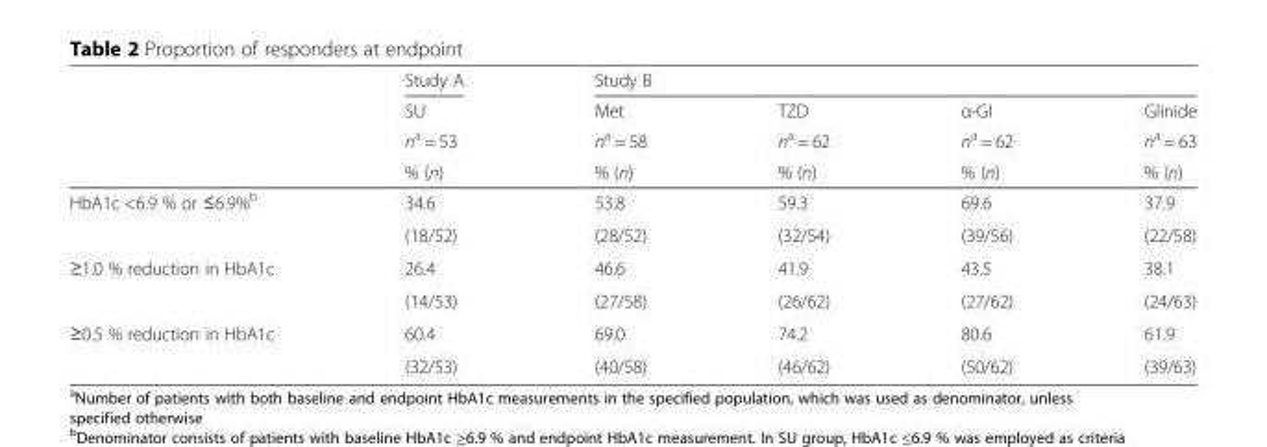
<table><thead><tr><td rowspan="4"></td><td rowspan="4">Study A SU n<sup>a</sup> = 53 % (n)</td><td colspan="4">Study B</td></tr><tr><td rowspan="3">Met n<sup>a</sup> = 58 % (n)</td><td rowspan="3">TZD n<sup>a</sup> = 62 % (n)</td><td rowspan="3">α-GI n<sup>a</sup> = 62 % (n)</td><td rowspan="3">Glinide n<sup>a</sup> = 63 % (n)</td></tr><tr></tr><tr></tr></thead><tbody><tr><td rowspan="2">HbA1c &lt;6.9 % or ≤6.9%<sup>b</sup></td><td>34.6</td><td>53.8</td><td>59.3</td><td>69.6</td><td>37.9</td></tr><tr><td>(18/52)</td><td>(28/52)</td><td>(32/54)</td><td>(39/56)</td><td>(22/58)</td></tr><tr><td rowspan="2">≥1.0 % reduction in HbA1c</td><td>26.4</td><td>46.6</td><td>41.9</td><td>43.5</td><td>38.1</td></tr><tr><td>(14/53)</td><td>(27/58)</td><td>(26/62)</td><td>(27/62)</td><td>(24/63)</td></tr><tr><td rowspan="2">≥0.5 % reduction in HbA1c</td><td>60.4</td><td>69.0</td><td>74.2</td><td>80.6</td><td>61.9</td></tr><tr><td>(32/53)</td><td>(40/58)</td><td>(46/62)</td><td>(50/62)</td><td>(39/63)</td></tr></tbody></table>